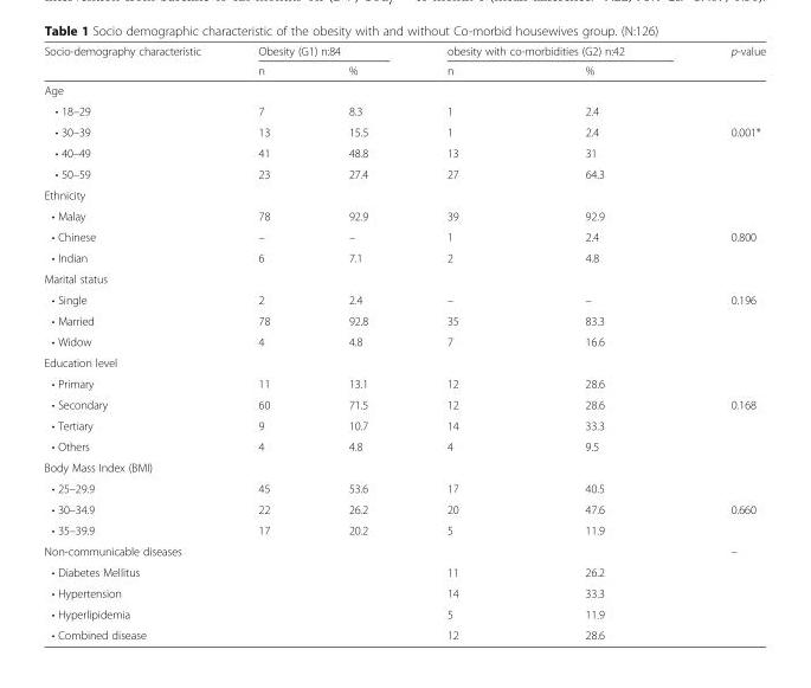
<table><thead><tr><td rowspan="2">Socio-demography characteristic</td><td colspan="2">Obesity (G1) n:84</td><td colspan="2">obesity with co-morbidities (G2) n:42</td><td rowspan="2">p-value</td></tr><tr><td>n</td><td>%</td><td>n</td><td>%</td></tr></thead><tbody><tr><td colspan="6">Age</td></tr><tr><td>• 18–29</td><td>7</td><td>8.3</td><td>1</td><td colspan="2">2.4</td></tr><tr><td>• 30–39</td><td>13</td><td>15.5</td><td>1</td><td>2.4</td><td>0.001*</td></tr><tr><td>• 40–49</td><td>41</td><td>48.8</td><td>13</td><td>31</td><td></td></tr><tr><td>• 50–59</td><td>23</td><td>27.4</td><td>27</td><td>64.3</td><td></td></tr><tr><td colspan="6">Ethnicity</td></tr><tr><td>• Malay</td><td>78</td><td>92.9</td><td>39</td><td>92.9</td><td></td></tr><tr><td>• Chinese</td><td>–</td><td>–</td><td>1</td><td>2.4</td><td>0.800</td></tr><tr><td>• Indian</td><td>6</td><td>7.1</td><td>2</td><td>4.8</td><td></td></tr><tr><td colspan="6">Marital status</td></tr><tr><td>• Single</td><td>2</td><td>2.4</td><td>–</td><td>–</td><td>0.196</td></tr><tr><td>• Married</td><td>78</td><td>92.8</td><td>35</td><td>83.3</td><td></td></tr><tr><td>• Widow</td><td>4</td><td>4.8</td><td>7</td><td>16.6</td><td></td></tr><tr><td colspan="6">Education level</td></tr><tr><td>• Primary</td><td>11</td><td>13.1</td><td>12</td><td>28.6</td><td></td></tr><tr><td>• Secondary</td><td>60</td><td>71.5</td><td>12</td><td>28.6</td><td>0.168</td></tr><tr><td>• Tertiary</td><td>9</td><td>10.7</td><td>14</td><td>33.3</td><td></td></tr><tr><td>• Others</td><td>4</td><td>4.8</td><td>4</td><td>9.5</td><td></td></tr><tr><td colspan="6">Body Mass Index (BMI)</td></tr><tr><td>• 25–29.9</td><td>45</td><td>53.6</td><td>17</td><td>40.5</td><td></td></tr><tr><td>• 30–34.9</td><td>22</td><td>26.2</td><td>20</td><td>47.6</td><td>0.660</td></tr><tr><td>• 35–39.9</td><td>17</td><td>20.2</td><td>5</td><td>11.9</td><td></td></tr><tr><td colspan="5">Non-communicable diseases</td><td rowspan="5">–</td></tr><tr><td>• Diabetes Mellitus</td><td></td><td></td><td>11</td><td>26.2</td></tr><tr><td>• Hypertension</td><td></td><td></td><td>14</td><td>33.3</td></tr><tr><td>• Hyperlipidemia</td><td></td><td></td><td>5</td><td>11.9</td></tr><tr><td>• Combined disease</td><td></td><td></td><td>12</td><td>28.6</td></tr></tbody></table>